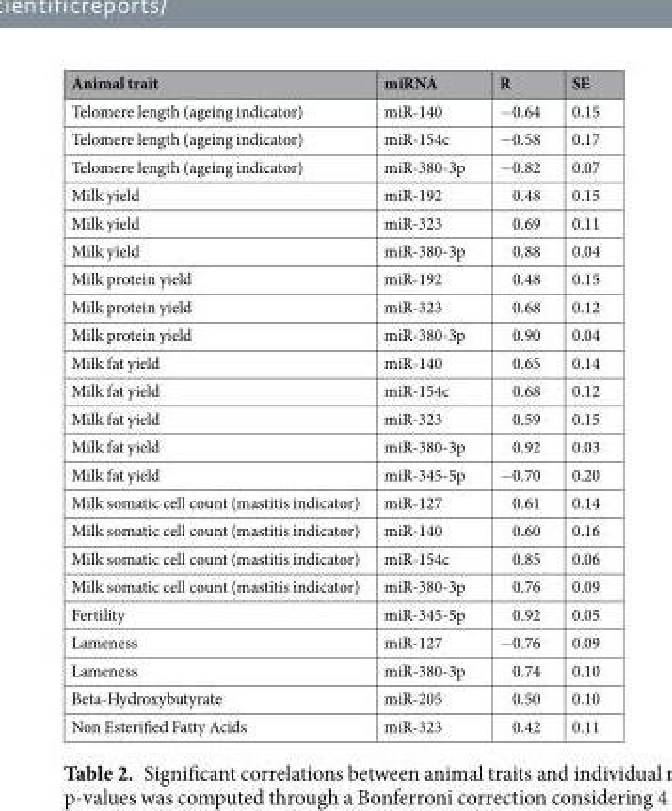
<table><thead><tr><td>Animal trait</td><td>miRNA</td><td>R</td><td>SE</td></tr></thead><tbody><tr><td>Telomere length (ageing indicator)</td><td>miR-140</td><td>−0.64</td><td>0.15</td></tr><tr><td>Telomere length (ageing indicator)</td><td>miR-154c</td><td>−0.58</td><td>0.17</td></tr><tr><td>Telomere length (ageing indicator)</td><td>miR-380-3p</td><td>−0.82</td><td>0.07</td></tr><tr><td>Milk yield</td><td>miR-192</td><td>0.48</td><td>0.15</td></tr><tr><td>Milk yield</td><td>miR-323</td><td>0.69</td><td>0.11</td></tr><tr><td>Milk yield</td><td>miR-380-3p</td><td>0.88</td><td>0.04</td></tr><tr><td>Milk protein yield</td><td>miR-192</td><td>0.48</td><td>0.15</td></tr><tr><td>Milk protein yield</td><td>miR-323</td><td>0.68</td><td>0.12</td></tr><tr><td>Milk protein yield</td><td>miR-380-3p</td><td>0.90</td><td>0.04</td></tr><tr><td>Milk fat yield</td><td>miR-140</td><td>0.65</td><td>0.14</td></tr><tr><td>Milk fat yield</td><td>miR-154c</td><td>0.68</td><td>0.12</td></tr><tr><td>Milk fat yield</td><td>miR-323</td><td>0.59</td><td>0.15</td></tr><tr><td>Milk fat yield</td><td>miR-380-3p</td><td>0.92</td><td>0.03</td></tr><tr><td>Milk fat yield</td><td>miR-345-5p</td><td>−0.70</td><td>0.20</td></tr><tr><td>Milk somatic cell count (mastitis indicator)</td><td>miR-127</td><td>0.61</td><td>0.14</td></tr><tr><td>Milk somatic cell count (mastitis indicator)</td><td>miR-140</td><td>0.60</td><td>0.16</td></tr><tr><td>Milk somatic cell count (mastitis indicator)</td><td>miR-154c</td><td>0.85</td><td>0.06</td></tr><tr><td>Milk somatic cell count (mastitis indicator)</td><td>miR-380-3p</td><td>0.76</td><td>0.09</td></tr><tr><td>Fertility</td><td>miR-345-5p</td><td>0.92</td><td>0.05</td></tr><tr><td>Lameness</td><td>miR-127</td><td>−0.76</td><td>0.09</td></tr><tr><td>Lameness</td><td>miR-380-3p</td><td>0.74</td><td>0.10</td></tr><tr><td>Beta-Hydroxybutyrate</td><td>miR-205</td><td>0.50</td><td>0.10</td></tr><tr><td>Non Esterified Fatty Acids</td><td>miR-323</td><td>0.42</td><td>0.11</td></tr></tbody></table>